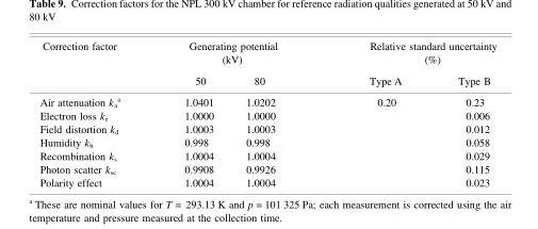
<table><thead><tr><td rowspan="2">Correction factor</td><td colspan="2">Generating potential (kV)</td><td colspan="2">Relative standard uncertainty (%)</td></tr><tr><td>50</td><td>80</td><td>Type A</td><td>Type B</td></tr></thead><tbody><tr><td>Air attenuation k<sub>a</sub> <sup>a</sup></td><td>1.0401</td><td>1.0202</td><td>0.20</td><td>0.23</td></tr><tr><td>Electron loss k<sub>e</sub></td><td>1.0000</td><td>1.0000</td><td></td><td>0.006</td></tr><tr><td>Field distortion k<sub>d</sub></td><td>1.0003</td><td>1.0003</td><td></td><td>0.012</td></tr><tr><td>Humidity k<sub>h</sub></td><td>0.998</td><td>0.998</td><td></td><td>0.058</td></tr><tr><td>Recombination k<sub>s</sub></td><td>1.0004</td><td>1.0004</td><td></td><td>0.029</td></tr><tr><td>Photon scatter k<sub>sc</sub></td><td>0.9908</td><td>0.9926</td><td></td><td>0.115</td></tr><tr><td>Polarity effect</td><td>1.0004</td><td>1.0004</td><td></td><td>0.023</td></tr></tbody></table>